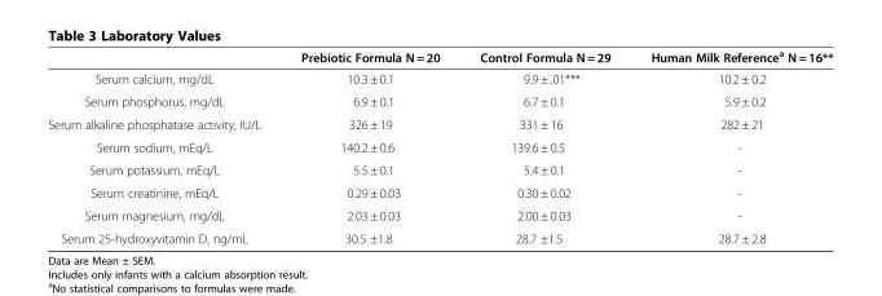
<table><thead><tr><td></td><td>Prebiotic Formula N = 20</td><td>Control Formula N = 29</td><td>Human Milk Reference<sup>a</sup> N = 16**</td></tr></thead><tbody><tr><td>Serum calcium, mg/dL</td><td>10.3 ± 0.1</td><td>9.9 ± .01***</td><td>10.2 ± 0.2</td></tr><tr><td>Serum phosphorus, mg/dL</td><td>6.9 ± 0.1</td><td>6.7 ± 0.1</td><td>5.9 ± 0.2</td></tr><tr><td>Serum alkaline phosphatase activity, IU/L</td><td>326 ± 19</td><td>331 ± 16</td><td>282 ± 21</td></tr><tr><td>Serum sodium, mEq/L</td><td>140.2 ± 0.6</td><td>139.6 ± 0.5</td><td>-</td></tr><tr><td>Serum potassium, mEq/L</td><td>5.5 ± 0.1</td><td>5.4 ± 0.1</td><td>-</td></tr><tr><td>Serum creatinine, mEq/L</td><td>0.29 ± 0.03</td><td>0.30 ± 0.02</td><td>-</td></tr><tr><td>Serum magnesium, mg/dL</td><td>2.03 ± 0.03</td><td>2.00 ± 0.03</td><td>-</td></tr><tr><td>Serum 25-hydroxyvitamin D, ng/mL</td><td>30.5 ±1.8</td><td>28.7 ±1.5</td><td>28.7 ± 2.8</td></tr></tbody></table>